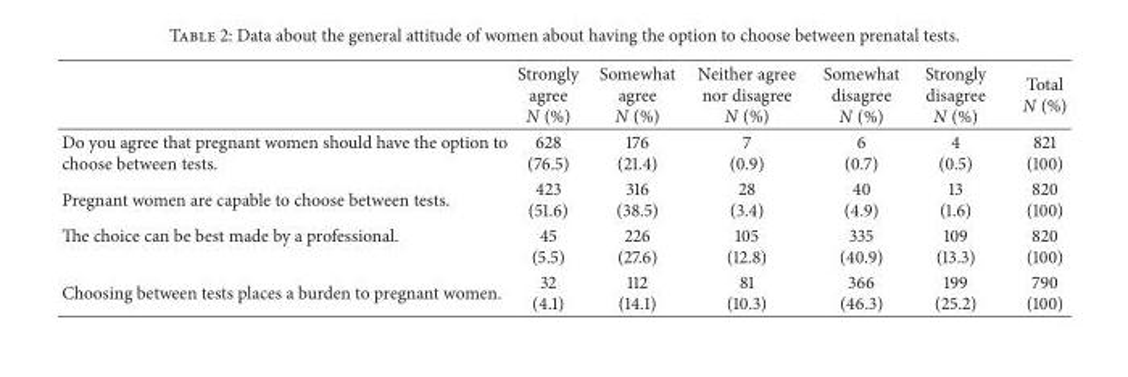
<table><thead><tr><td></td><td>Strongly agree N (%)</td><td>Somewhat agree N (%)</td><td>Neither agree nor disagree N (%)</td><td>Somewhat disagree N (%)</td><td>Strongly disagree N (%)</td><td>Total N (%)</td></tr></thead><tbody><tr><td>Do you agree that pregnant women should have the option to choose between tests.</td><td>628 (76.5)</td><td>176 (21.4)</td><td>7 (0.9)</td><td>6 (0.7)</td><td>4 (0.5)</td><td>821 (100)</td></tr><tr><td>Pregnant women are capable to choose between tests.</td><td>423 (51.6)</td><td>316 (38.5)</td><td>28 (3.4)</td><td>40 (4.9)</td><td>13 (1.6)</td><td>820 (100)</td></tr><tr><td>The choice can be best made by a professional.</td><td>45 (5.5)</td><td>226 (27.6)</td><td>105 (12.8)</td><td>335 (40.9)</td><td>109 (13.3)</td><td>820 (100)</td></tr><tr><td>Choosing between tests places a burden to pregnant women.</td><td>32 (4.1)</td><td>112 (14.1)</td><td>81 (10.3)</td><td>366 (46.3)</td><td>199 (25.2)</td><td>790 (100)</td></tr></tbody></table>